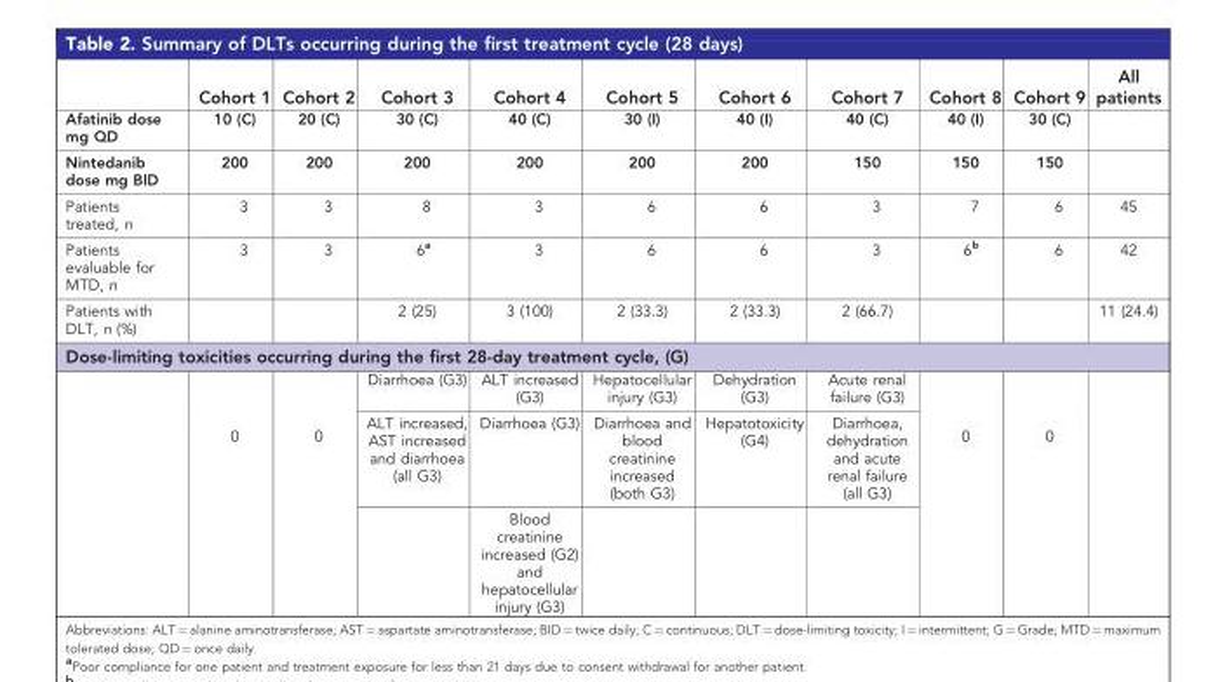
<table><thead><tr><td></td><td>Cohort 1</td><td>Cohort 2</td><td>Cohort 3</td><td>Cohort 4</td><td>Cohort 5</td><td>Cohort 6</td><td>Cohort 7</td><td>Cohort 8</td><td>Cohort 9</td><td>All patients</td></tr></thead><tbody><tr><td>Afatinib dose mg QD</td><td>10 (C)</td><td>20 (C)</td><td>30 (C)</td><td>40 (C)</td><td>30 (I)</td><td>40 (I)</td><td>40 (C)</td><td>40 (I)</td><td>30 (C)</td><td></td></tr><tr><td>Nintedanib dose mg BID</td><td>200</td><td>200</td><td>200</td><td>200</td><td>200</td><td>200</td><td>150</td><td>150</td><td>150</td><td></td></tr><tr><td>Patients treated, n</td><td>3</td><td>3</td><td>8</td><td>3</td><td>6</td><td>6</td><td>3</td><td>7</td><td>6</td><td>45</td></tr><tr><td>Patients evaluable for MTD, n</td><td>3</td><td>3</td><td>6<sup>a</sup></td><td>3</td><td>6</td><td>6</td><td>3</td><td>6<sup>b</sup></td><td>6</td><td>42</td></tr><tr><td>Patients with DLT, n (%)</td><td></td><td></td><td>2 (25)</td><td>3 (100)</td><td>2 (33.3)</td><td>2 (33.3)</td><td>2 (66.7)</td><td></td><td></td><td>11 (24.4)</td></tr><tr><td colspan="11">Dose-limiting toxicities occurring during the first 28-day treatment cycle, (G)</td></tr><tr><td></td><td></td><td></td><td>Diarrhoea (G3)</td><td>ALT increased (G3)</td><td>Hepatocellular injury (G3)</td><td>Dehydration (G3)</td><td>Acute renal failure (G3)</td><td></td><td></td><td></td></tr><tr><td></td><td>0</td><td>0</td><td>ALT increased, AST increased and diarrhoea (all G3)</td><td>Diarrhoea (G3)</td><td>Diarrhoea and blood creatinine increased (both G3)</td><td>Hepatotoxicity (G4)</td><td>Diarrhoea, dehydration and acute renal failure (all G3)</td><td>0</td><td>0</td><td></td></tr><tr><td></td><td></td><td></td><td></td><td>Blood creatinine increased (G2) and hepatocellular injury (G3)</td><td></td><td></td><td></td><td></td><td></td><td></td></tr></tbody></table>